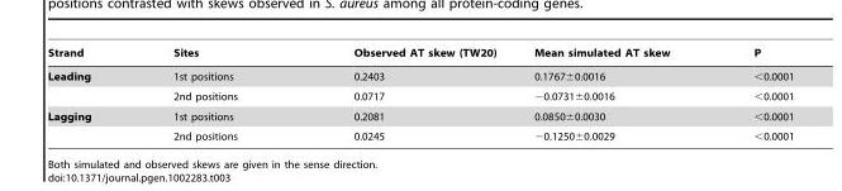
<table><thead><tr><td>Strand</td><td>Sites</td><td>Observed AT skew (TW20)</td><td>Mean simulated AT skew</td><td>P</td></tr></thead><tbody><tr><td rowspan="2">Leading</td><td>1st positions</td><td>0.2403</td><td>0.1767±0.0016</td><td>&lt;0.0001</td></tr><tr><td>2nd positions</td><td>0.0717</td><td>−0.0731±0.0016</td><td>&lt;0.0001</td></tr><tr><td rowspan="2">Lagging</td><td>1st positions</td><td>0.2081</td><td>0.0850±0.0030</td><td>&lt;0.0001</td></tr><tr><td>2nd positions</td><td>0.0245</td><td>−0.1250±0.0029</td><td>&lt;0.0001</td></tr></tbody></table>